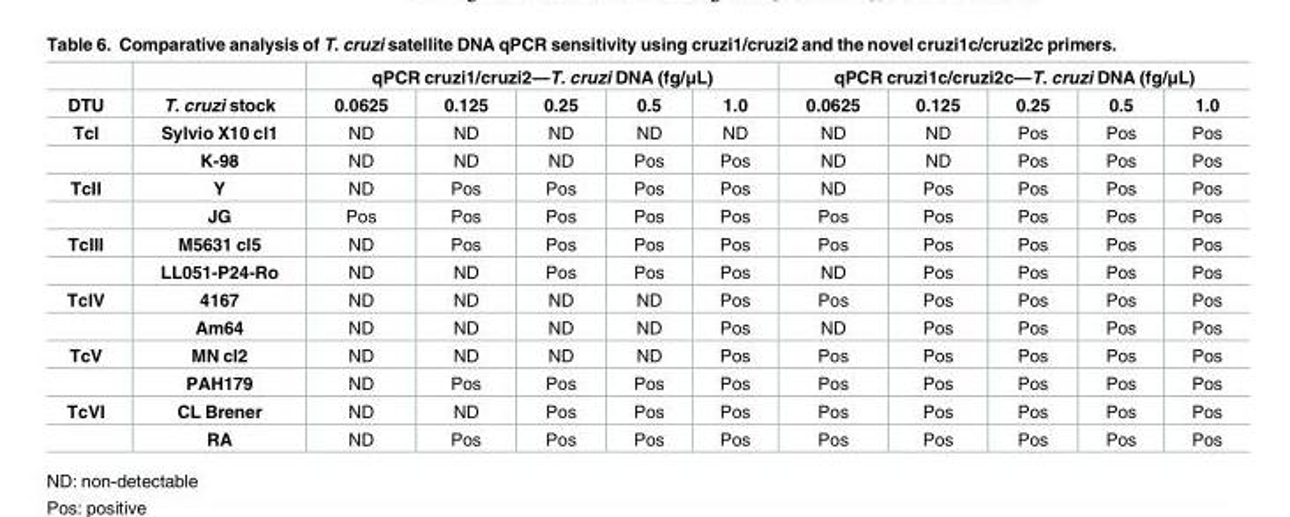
<table><thead><tr><td rowspan="2">DTU</td><td rowspan="2">T. cruzi stock</td><td colspan="5">qPCR cruzi1/cruzi2—T. cruzi DNA (fg/μL)</td><td colspan="5">qPCR cruzi1c/cruzi2c—T. cruzi DNA (fg/μL)</td></tr><tr><td>0.0625</td><td>0.125</td><td>0.25</td><td>0.5</td><td>1.0</td><td>0.0625</td><td>0.125</td><td>0.25</td><td>0.5</td><td>1.0</td></tr></thead><tbody><tr><td rowspan="2">TcI</td><td>Sylvio X10 cl1</td><td>ND</td><td>ND</td><td>ND</td><td>ND</td><td>ND</td><td>ND</td><td>ND</td><td>Pos</td><td>Pos</td><td>Pos</td></tr><tr><td>K-98</td><td>ND</td><td>ND</td><td>ND</td><td>Pos</td><td>Pos</td><td>ND</td><td>ND</td><td>Pos</td><td>Pos</td><td>Pos</td></tr><tr><td rowspan="2">TcII</td><td>Y</td><td>ND</td><td>Pos</td><td>Pos</td><td>Pos</td><td>Pos</td><td>ND</td><td>Pos</td><td>Pos</td><td>Pos</td><td>Pos</td></tr><tr><td>JG</td><td>Pos</td><td>Pos</td><td>Pos</td><td>Pos</td><td>Pos</td><td>Pos</td><td>Pos</td><td>Pos</td><td>Pos</td><td>Pos</td></tr><tr><td rowspan="2">TcIII</td><td>M5631 cl5</td><td>ND</td><td>Pos</td><td>Pos</td><td>Pos</td><td>Pos</td><td>Pos</td><td>Pos</td><td>Pos</td><td>Pos</td><td>Pos</td></tr><tr><td>LL051-P24-Ro</td><td>ND</td><td>ND</td><td>Pos</td><td>Pos</td><td>Pos</td><td>ND</td><td>Pos</td><td>Pos</td><td>Pos</td><td>Pos</td></tr><tr><td rowspan="2">TcIV</td><td>4167</td><td>ND</td><td>ND</td><td>ND</td><td>ND</td><td>Pos</td><td>Pos</td><td>Pos</td><td>Pos</td><td>Pos</td><td>Pos</td></tr><tr><td>Am64</td><td>ND</td><td>ND</td><td>ND</td><td>ND</td><td>Pos</td><td>ND</td><td>Pos</td><td>Pos</td><td>Pos</td><td>Pos</td></tr><tr><td rowspan="2">TcV</td><td>MN cl2</td><td>ND</td><td>ND</td><td>ND</td><td>ND</td><td>Pos</td><td>Pos</td><td>Pos</td><td>Pos</td><td>Pos</td><td>Pos</td></tr><tr><td>PAH179</td><td>ND</td><td>Pos</td><td>Pos</td><td>Pos</td><td>Pos</td><td>Pos</td><td>Pos</td><td>Pos</td><td>Pos</td><td>Pos</td></tr><tr><td rowspan="2">TcVI</td><td>CL Brener</td><td>ND</td><td>ND</td><td>Pos</td><td>Pos</td><td>Pos</td><td>Pos</td><td>Pos</td><td>Pos</td><td>Pos</td><td>Pos</td></tr><tr><td>RA</td><td>ND</td><td>Pos</td><td>Pos</td><td>Pos</td><td>Pos</td><td>Pos</td><td>Pos</td><td>Pos</td><td>Pos</td><td>Pos</td></tr></tbody></table>